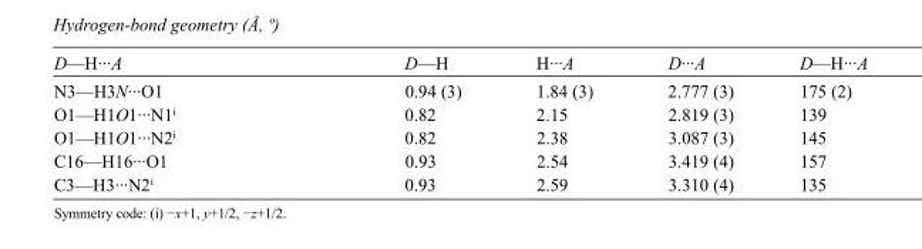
<table><tbody><tr><td>D—H···A</td><td>D—H</td><td>H···A</td><td>D···A</td><td>D—H···A</td></tr><tr><td>N3—H3N···O1</td><td>0.94 (3)</td><td>1.84 (3)</td><td>2.777 (3)</td><td>175 (2)</td></tr><tr><td>O1—H1O1···N1<sup>i</sup></td><td>0.82</td><td>2.15</td><td>2.819 (3)</td><td>139</td></tr><tr><td>O1—H1O1···N2<sup>i</sup></td><td>0.82</td><td>2.38</td><td>3.087 (3)</td><td>145</td></tr><tr><td>C16—H16···O1</td><td>0.93</td><td>2.54</td><td>3.419 (4)</td><td>157</td></tr><tr><td>C3—H3···N2<sup>i</sup></td><td>0.93</td><td>2.59</td><td>3.310 (4)</td><td>135</td></tr></tbody></table>